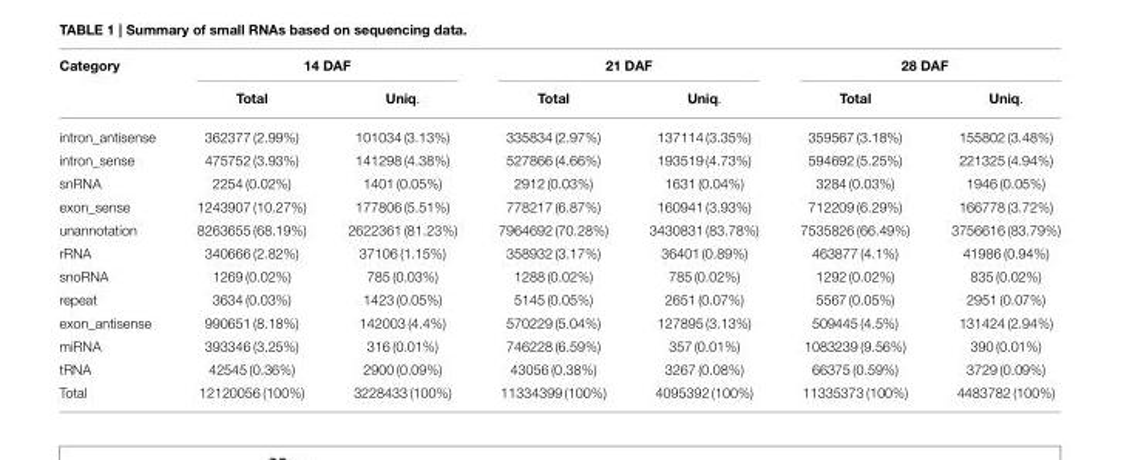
<table><thead><tr><td rowspan="2">Category</td><td colspan="2">14 DAF</td><td colspan="2">21 DAF</td><td colspan="2">28 DAF</td></tr><tr><td>Total</td><td>Uniq.</td><td>Total</td><td>Uniq.</td><td>Total</td><td>Uniq.</td></tr></thead><tbody><tr><td>intron_antisense</td><td>362377 (2.99%)</td><td>101034 (3.13%)</td><td>335834 (2.97%)</td><td>137114 (3.35%)</td><td>359567 (3.18%)</td><td>155802 (3.48%)</td></tr><tr><td>intron_sense</td><td>475752 (3.93%)</td><td>141298 (4.38%)</td><td>527866 (4.66%)</td><td>193519 (4.73%)</td><td>594692 (5.25%)</td><td>221325 (4.94%)</td></tr><tr><td>snRNA</td><td>2254 (0.02%)</td><td>1401 (0.05%)</td><td>2912 (0.03%)</td><td>1631 (0.04%)</td><td>3284 (0.03%)</td><td>1946 (0.05%)</td></tr><tr><td>exon_sense</td><td>1243907 (10.27%)</td><td>177806 (5.51%)</td><td>778217 (6.87%)</td><td>160941 (3.93%)</td><td>712209 (6.29%)</td><td>166778 (3.72%)</td></tr><tr><td>unannotation</td><td>8263655 (68.19%)</td><td>2622361 (81.23%)</td><td>7964692 (70.28%)</td><td>3430831 (83.78%)</td><td>7535826 (66.49%)</td><td>3756616 (83.79%)</td></tr><tr><td>rRNA</td><td>340666 (2.82%)</td><td>37106 (1.15%)</td><td>358932 (3.17%)</td><td>36401 (0.89%)</td><td>463877 (4.1%)</td><td>41986 (0.94%)</td></tr><tr><td>snoRNA</td><td>1269 (0.02%)</td><td>785 (0.03%)</td><td>1288 (0.02%)</td><td>785 (0.02%)</td><td>1292 (0.02%)</td><td>835 (0.02%)</td></tr><tr><td>repeat</td><td>3634 (0.03%)</td><td>1423 (0.05%)</td><td>5145 (0.05%)</td><td>2651 (0.07%)</td><td>5567 (0.05%)</td><td>2951 (0.07%)</td></tr><tr><td>exon_antisense</td><td>990651 (8.18%)</td><td>142003 (4.4%)</td><td>570229 (5.04%)</td><td>127895 (3.13%)</td><td>509445 (4.5%)</td><td>131424 (2.94%)</td></tr><tr><td>miRNA</td><td>393346 (3.25%)</td><td>316 (0.01%)</td><td>746228 (6.59%)</td><td>357 (0.01%)</td><td>1083239 (9.56%)</td><td>390 (0.01%)</td></tr><tr><td>tRNA</td><td>42545 (0.36%)</td><td>2900 (0.09%)</td><td>43056 (0.38%)</td><td>3267 (0.08%)</td><td>66375 (0.59%)</td><td>3729 (0.09%)</td></tr><tr><td>Total</td><td>12120056 (100%)</td><td>3228433 (100%)</td><td>11334399 (100%)</td><td>4095392 (100%)</td><td>11335373 (100%)</td><td>4483782 (100%)</td></tr></tbody></table>